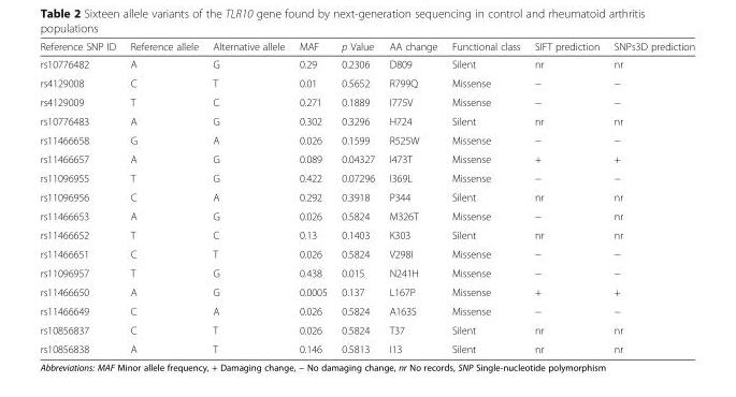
<table><thead><tr><td>Reference SNP ID</td><td>Reference allele</td><td>Alternative allele</td><td>MAF</td><td>p Value</td><td>AA change</td><td>Functional class</td><td>SIFT prediction</td><td>SNPs3D prediction</td></tr></thead><tbody><tr><td>rs10776482</td><td>A</td><td>G</td><td>0.29</td><td>0.2306</td><td>D809</td><td>Silent</td><td>nr</td><td>nr</td></tr><tr><td>rs4129008</td><td>C</td><td>T</td><td>0.01</td><td>0.5652</td><td>R799Q</td><td>Missense</td><td>−</td><td>−</td></tr><tr><td>rs4129009</td><td>T</td><td>C</td><td>0.271</td><td>0.1889</td><td>I775V</td><td>Missense</td><td>−</td><td>−</td></tr><tr><td>rs10776483</td><td>A</td><td>G</td><td>0.302</td><td>0.3296</td><td>H724</td><td>Silent</td><td>nr</td><td>nr</td></tr><tr><td>rs11466658</td><td>G</td><td>A</td><td>0.026</td><td>0.1599</td><td>R525W</td><td>Missense</td><td>−</td><td>−</td></tr><tr><td>rs11466657</td><td>A</td><td>G</td><td>0.089</td><td>0.04327</td><td>I473T</td><td>Missense</td><td>+</td><td>+</td></tr><tr><td>rs11096955</td><td>T</td><td>G</td><td>0.422</td><td>0.07296</td><td>I369L</td><td>Missense</td><td>−</td><td>−</td></tr><tr><td>rs11096956</td><td>C</td><td>A</td><td>0.292</td><td>0.3918</td><td>P344</td><td>Silent</td><td>nr</td><td>nr</td></tr><tr><td>rs11466653</td><td>A</td><td>G</td><td>0.026</td><td>0.5824</td><td>M326T</td><td>Missense</td><td>−</td><td>nr</td></tr><tr><td>rs11466652</td><td>T</td><td>C</td><td>0.13</td><td>0.1403</td><td>K303</td><td>Silent</td><td>nr</td><td>nr</td></tr><tr><td>rs11466651</td><td>C</td><td>T</td><td>0.026</td><td>0.5824</td><td>V298I</td><td>Missense</td><td>−</td><td>−</td></tr><tr><td>rs11096957</td><td>T</td><td>G</td><td>0.438</td><td>0.015</td><td>N241H</td><td>Missense</td><td>−</td><td>−</td></tr><tr><td>rs11466650</td><td>A</td><td>G</td><td>0.0005</td><td>0.137</td><td>L167P</td><td>Missense</td><td>+</td><td>+</td></tr><tr><td>rs11466649</td><td>C</td><td>A</td><td>0.026</td><td>0.5824</td><td>A163S</td><td>Missense</td><td>−</td><td>−</td></tr><tr><td>rs10856837</td><td>C</td><td>T</td><td>0.026</td><td>0.5824</td><td>T37</td><td>Silent</td><td>nr</td><td>nr</td></tr><tr><td>rs10856838</td><td>A</td><td>T</td><td>0.146</td><td>0.5813</td><td>I13</td><td>Silent</td><td>nr</td><td>nr</td></tr></tbody></table>